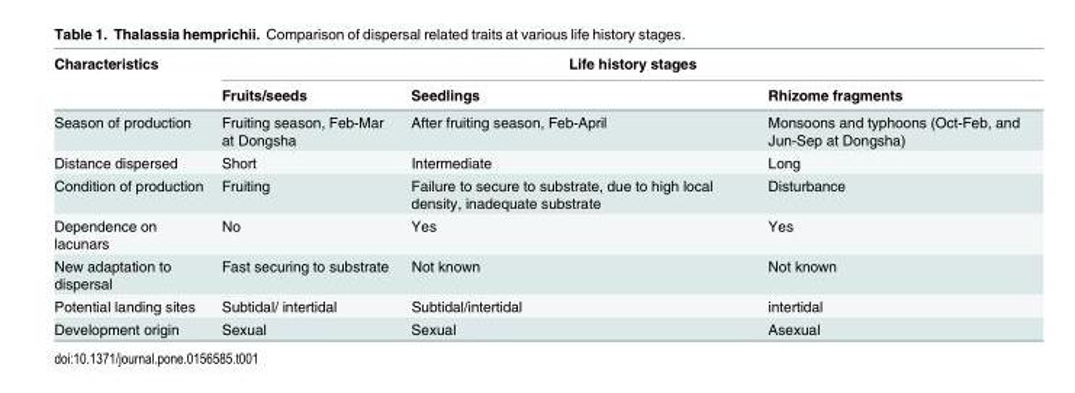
<table><thead><tr><td rowspan="2">Characteristics</td><td colspan="3">Life history stages</td></tr><tr><td>Fruits/seeds</td><td>Seedlings</td><td>Rhizome fragments</td></tr></thead><tbody><tr><td>Season of production</td><td>Fruiting season, Feb-Mar at Dongsha</td><td>After fruiting season, Feb-April</td><td>Monsoons and typhoons (Oct-Feb, and Jun-Sep at Dongsha)</td></tr><tr><td>Distance dispersed</td><td>Short</td><td>Intermediate</td><td>Long</td></tr><tr><td>Condition of production</td><td>Fruiting</td><td>Failure to secure to substrate, due to high local density, inadequate substrate</td><td>Disturbance</td></tr><tr><td>Dependence on lacunars</td><td>No</td><td>Yes</td><td>Yes</td></tr><tr><td>New adaptation to dispersal</td><td>Fast securing to substrate</td><td>Not known</td><td>Not known</td></tr><tr><td>Potential landing sites</td><td>Subtidal/ intertidal</td><td>Subtidal/intertidal</td><td>intertidal</td></tr><tr><td>Development origin</td><td>Sexual</td><td>Sexual</td><td>Asexual</td></tr></tbody></table>